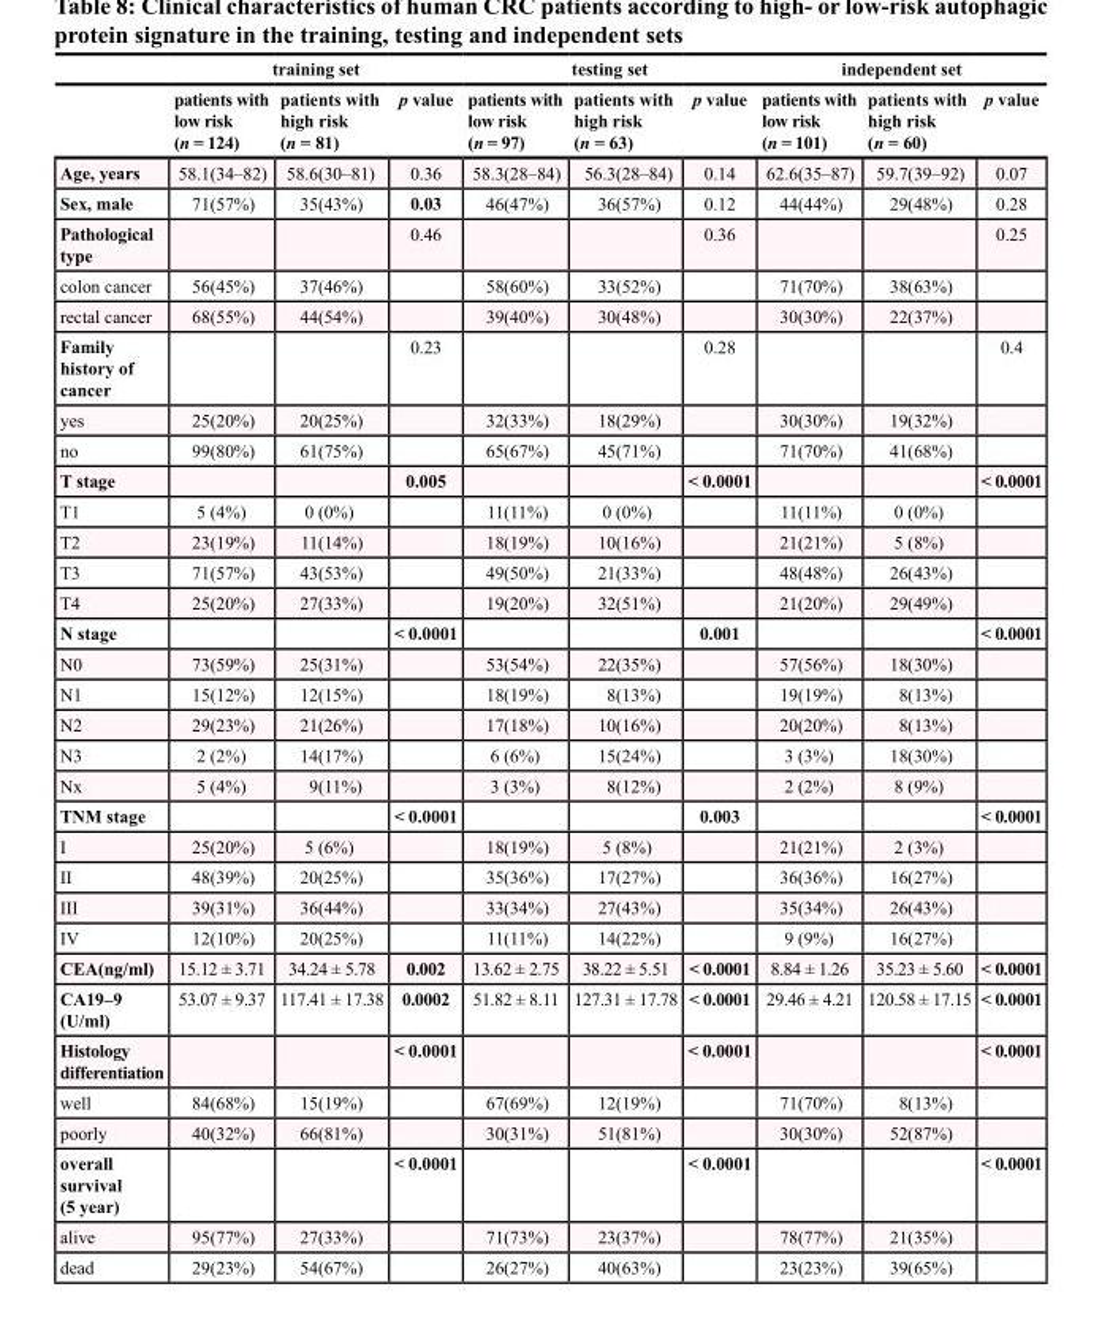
<table><thead><tr><td rowspan="2"></td><td colspan="3">training set</td><td colspan="3">testing set</td><td colspan="3">independent set</td></tr><tr><td>patients with low risk (n = 124)</td><td>patients with high risk (n = 81)</td><td>p value</td><td>patients with low risk (n = 97)</td><td>patients with high risk (n = 63)</td><td>p value</td><td>patients with low risk (n = 101)</td><td>patients with high risk (n = 60)</td><td>p value</td></tr></thead><tbody><tr><td>Age, years</td><td>58.1(34–82)</td><td>58.6(30–81)</td><td>0.36</td><td>58.3(28–84)</td><td>56.3(28–84)</td><td>0.14</td><td>62.6(35–87)</td><td>59.7(39–92)</td><td>0.07</td></tr><tr><td>Sex, male</td><td>71(57%)</td><td>35(43%)</td><td>0.03</td><td>46(47%)</td><td>36(57%)</td><td>0.12</td><td>44(44%)</td><td>29(48%)</td><td>0.28</td></tr><tr><td>Pathological type</td><td></td><td></td><td>0.46</td><td></td><td></td><td>0.36</td><td></td><td></td><td>0.25</td></tr><tr><td>colon cancer</td><td>56(45%)</td><td>37(46%)</td><td></td><td>58(60%)</td><td>33(52%)</td><td></td><td>71(70%)</td><td>38(63%)</td><td></td></tr><tr><td>rectal cancer</td><td>68(55%)</td><td>44(54%)</td><td></td><td>39(40%)</td><td>30(48%)</td><td></td><td>30(30%)</td><td>22(37%)</td><td></td></tr><tr><td>Family history of cancer</td><td></td><td></td><td>0.23</td><td></td><td></td><td>0.28</td><td></td><td></td><td>0.4</td></tr><tr><td>yes</td><td>25(20%)</td><td>20(25%)</td><td></td><td>32(33%)</td><td>18(29%)</td><td></td><td>30(30%)</td><td>19(32%)</td><td></td></tr><tr><td>no</td><td>99(80%)</td><td>61(75%)</td><td></td><td>65(67%)</td><td>45(71%)</td><td></td><td>71(70%)</td><td>41(68%)</td><td></td></tr><tr><td>T stage</td><td></td><td></td><td>0.005</td><td></td><td></td><td>&lt; 0.0001</td><td></td><td></td><td>&lt; 0.0001</td></tr><tr><td>T1</td><td>5 (4%)</td><td>0 (0%)</td><td></td><td>11(11%)</td><td>0 (0%)</td><td></td><td>11(11%)</td><td>0 (0%)</td><td></td></tr><tr><td>T2</td><td>23(19%)</td><td>11(14%)</td><td></td><td>18(19%)</td><td>10(16%)</td><td></td><td>21(21%)</td><td>5 (8%)</td><td></td></tr><tr><td>T3</td><td>71(57%)</td><td>43(53%)</td><td></td><td>49(50%)</td><td>21(33%)</td><td></td><td>48(48%)</td><td>26(43%)</td><td></td></tr><tr><td>T4</td><td>25(20%)</td><td>27(33%)</td><td></td><td>19(20%)</td><td>32(51%)</td><td></td><td>21(20%)</td><td>29(49%)</td><td></td></tr><tr><td>N stage</td><td></td><td></td><td>&lt; 0.0001</td><td></td><td></td><td>0.001</td><td></td><td></td><td>&lt; 0.0001</td></tr><tr><td>N0</td><td>73(59%)</td><td>25(31%)</td><td></td><td>53(54%)</td><td>22(35%)</td><td></td><td>57(56%)</td><td>18(30%)</td><td></td></tr><tr><td>N1</td><td>15(12%)</td><td>12(15%)</td><td></td><td>18(19%)</td><td>8(13%)</td><td></td><td>19(19%)</td><td>8(13%)</td><td></td></tr><tr><td>N2</td><td>29(23%)</td><td>21(26%)</td><td></td><td>17(18%)</td><td>10(16%)</td><td></td><td>20(20%)</td><td>8(13%)</td><td></td></tr><tr><td>N3</td><td>2 (2%)</td><td>14(17%)</td><td></td><td>6 (6%)</td><td>15(24%)</td><td></td><td>3 (3%)</td><td>18(30%)</td><td></td></tr><tr><td>Nx</td><td>5 (4%)</td><td>9(11%)</td><td></td><td>3 (3%)</td><td>8(12%)</td><td></td><td>2 (2%)</td><td>8 (9%)</td><td></td></tr><tr><td>TNM stage</td><td></td><td></td><td>&lt; 0.0001</td><td></td><td></td><td>0.003</td><td></td><td></td><td>&lt; 0.0001</td></tr><tr><td>I</td><td>25(20%)</td><td>5 (6%)</td><td></td><td>18(19%)</td><td>5 (8%)</td><td></td><td>21(21%)</td><td>2 (3%)</td><td></td></tr><tr><td>II</td><td>48(39%)</td><td>20(25%)</td><td></td><td>35(36%)</td><td>17(27%)</td><td></td><td>36(36%)</td><td>16(27%)</td><td></td></tr><tr><td>III</td><td>39(31%)</td><td>36(44%)</td><td></td><td>33(34%)</td><td>27(43%)</td><td></td><td>35(34%)</td><td>26(43%)</td><td></td></tr><tr><td>IV</td><td>12(10%)</td><td>20(25%)</td><td></td><td>11(11%)</td><td>14(22%)</td><td></td><td>9 (9%)</td><td>16(27%)</td><td></td></tr><tr><td>CEA(ng/ml)</td><td>15.12 ± 3.71</td><td>34.24 ± 5.78</td><td>0.002</td><td>13.62 ± 2.75</td><td>38.22 ± 5.51</td><td>&lt; 0.0001</td><td>8.84 ± 1.26</td><td>35.23 ± 5.60</td><td>&lt; 0.0001</td></tr><tr><td>CA19–9 (U/ml)</td><td>53.07 ± 9.37</td><td>117.41 ± 17.38</td><td>0.0002</td><td>51.82 ± 8.11</td><td>127.31 ± 17.78</td><td>&lt; 0.0001</td><td>29.46 ± 4.21</td><td>120.58 ± 17.15</td><td>&lt; 0.0001</td></tr><tr><td>Histology differentiation</td><td></td><td></td><td>&lt; 0.0001</td><td></td><td></td><td>&lt; 0.0001</td><td></td><td></td><td>&lt; 0.0001</td></tr><tr><td>well</td><td>84(68%)</td><td>15(19%)</td><td></td><td>67(69%)</td><td>12(19%)</td><td></td><td>71(70%)</td><td>8(13%)</td><td></td></tr><tr><td>poorly</td><td>40(32%)</td><td>66(81%)</td><td></td><td>30(31%)</td><td>51(81%)</td><td></td><td>30(30%)</td><td>52(87%)</td><td></td></tr><tr><td>overall survival (5 year)</td><td></td><td></td><td>&lt; 0.0001</td><td></td><td></td><td>&lt; 0.0001</td><td></td><td></td><td>&lt; 0.0001</td></tr><tr><td>alive</td><td>95(77%)</td><td>27(33%)</td><td></td><td>71(73%)</td><td>23(37%)</td><td></td><td>78(77%)</td><td>21(35%)</td><td></td></tr><tr><td>dead</td><td>29(23%)</td><td>54(67%)</td><td></td><td>26(27%)</td><td>40(63%)</td><td></td><td>23(23%)</td><td>39(65%)</td><td></td></tr></tbody></table>